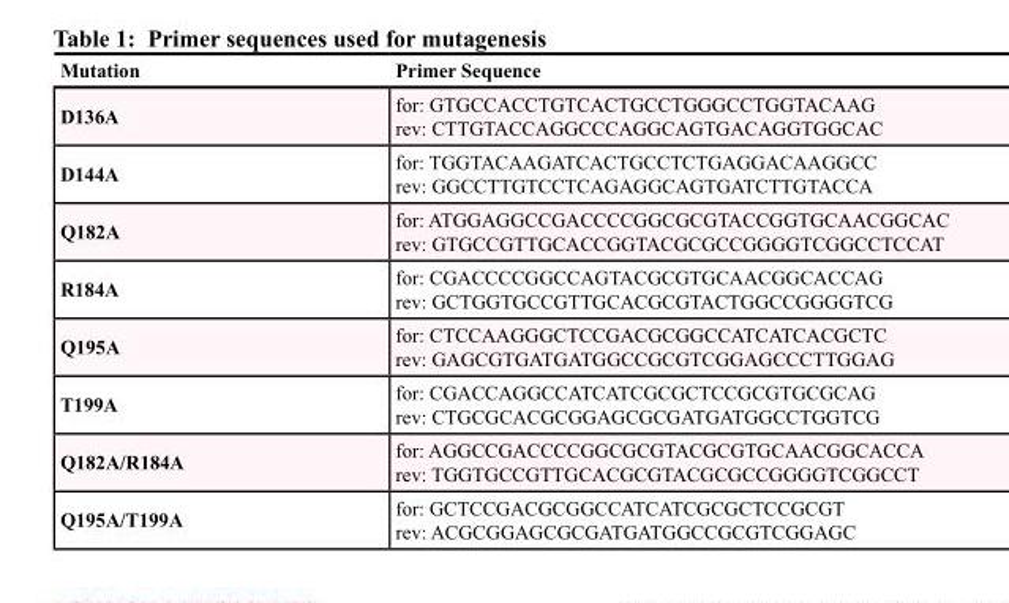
<table><thead><tr><td>Mutation</td><td>Primer Sequence</td></tr></thead><tbody><tr><td>D136A</td><td>for: GTGCCACCTGTCACTGCCTGGGCCTGGTACAAG rev: CTTGTACCAGGCCCAGGCAGTGACAGGTGGCAC</td></tr><tr><td>D144A</td><td>for: TGGTACAAGATCACTGCCTCTGAGGACAAGGCC rev: GGCCTTGTCCTCAGAGGCAGTGATCTTGTACCA</td></tr><tr><td>Q182A</td><td>for: ATGGAGGCCGACCCCGGCGCGTACCGGTGCAACGGCAC rev: GTGCCGTTGCACCGGTACGCGCCGGGGTCGGCCTCCAT</td></tr><tr><td>R184A</td><td>for: CGACCCCGGCCAGTACGCGTGCAACGGCACCAG rev: GCTGGTGCCGTTGCACGCGTACTGGCCGGGGTCG</td></tr><tr><td>Q195A</td><td>for: CTCCAAGGGCTCCGACGCGGCCATCATCACGCTC rev: GAGCGTGATGATGGCCGCGTCGGAGCCCTTGGAG</td></tr><tr><td>T199A</td><td>for: CGACCAGGCCATCATCGCGCTCCGCGTGCGCAG rev: CTGCGCACGCGGAGCGCGATGATGGCCTGGTCG</td></tr><tr><td>Q182A/R184A</td><td>for: AGGCCGACCCCGGCGCGTACGCGTGCAACGGCACCA rev: TGGTGCCGTTGCACGCGTACGCGCCGGGGTCGGCCT</td></tr><tr><td>Q195A/T199A</td><td>for: GCTCCGACGCGGCCATCATCGCGCTCCGCGT rev: ACGCGGAGCGCGATGATGGCCGCGTCGGAGC</td></tr></tbody></table>